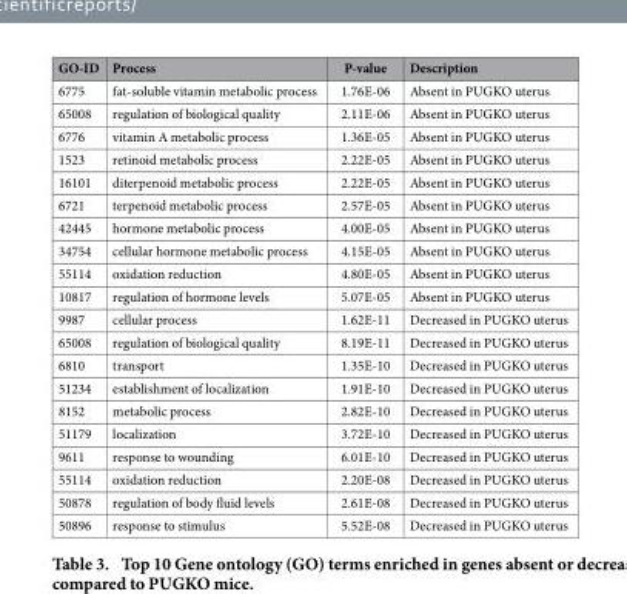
<table><thead><tr><td>GO-ID</td><td>Process</td><td>P-value</td><td>Description</td></tr></thead><tbody><tr><td>6775</td><td>fat-soluble vitamin metabolic process</td><td>1.76E-06</td><td>Absent in PUGKO uterus</td></tr><tr><td>65008</td><td>regulation of biological quality</td><td>2.11E-06</td><td>Absent in PUGKO uterus</td></tr><tr><td>6776</td><td>vitamin A metabolic process</td><td>1.36E-05</td><td>Absent in PUGKO uterus</td></tr><tr><td>1523</td><td>retinoid metabolic process</td><td>2.22E-05</td><td>Absent in PUGKO uterus</td></tr><tr><td>16101</td><td>diterpenoid metabolic process</td><td>2.22E-05</td><td>Absent in PUGKO uterus</td></tr><tr><td>6721</td><td>terpenoid metabolic process</td><td>2.57E-05</td><td>Absent in PUGKO uterus</td></tr><tr><td>42445</td><td>hormone metabolic process</td><td>4.00E-05</td><td>Absent in PUGKO uterus</td></tr><tr><td>34754</td><td>cellular hormone metabolic process</td><td>4.15E-05</td><td>Absent in PUGKO uterus</td></tr><tr><td>55114</td><td>oxidation reduction</td><td>4.80E-05</td><td>Absent in PUGKO uterus</td></tr><tr><td>10817</td><td>regulation of hormone levels</td><td>5.07E-05</td><td>Absent in PUGKO uterus</td></tr><tr><td>9987</td><td>cellular process</td><td>1.62E-11</td><td>Decreased in PUGKO uterus</td></tr><tr><td>65008</td><td>regulation of biological quality</td><td>8.19E-11</td><td>Decreased in PUGKO uterus</td></tr><tr><td>6810</td><td>transport</td><td>1.35E-10</td><td>Decreased in PUGKO uterus</td></tr><tr><td>51234</td><td>establishment of localization</td><td>1.91E-10</td><td>Decreased in PUGKO uterus</td></tr><tr><td>8152</td><td>metabolic process</td><td>2.82E-10</td><td>Decreased in PUGKO uterus</td></tr><tr><td>51179</td><td>localization</td><td>3.72E-10</td><td>Decreased in PUGKO uterus</td></tr><tr><td>9611</td><td>response to wounding</td><td>6.01E-10</td><td>Decreased in PUGKO uterus</td></tr><tr><td>55114</td><td>oxidation reduction</td><td>2.20E-08</td><td>Decreased in PUGKO uterus</td></tr><tr><td>50878</td><td>regulation of body fluid levels</td><td>2.61E-08</td><td>Decreased in PUGKO uterus</td></tr><tr><td>50896</td><td>response to stimulus</td><td>5.52E-08</td><td>Decreased in PUGKO uterus</td></tr></tbody></table>